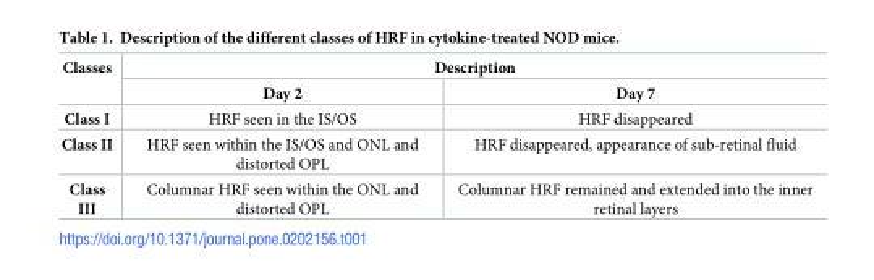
<table><thead><tr><td rowspan="2">Classes</td><td colspan="2">Description</td></tr><tr><td>Day 2</td><td>Day 7</td></tr></thead><tbody><tr><td>Class I</td><td>HRF seen in the IS/OS</td><td>HRF disappeared</td></tr><tr><td>Class II</td><td>HRF seen within the IS/OS and ONL and distorted OPL</td><td>HRF disappeared, appearance of sub-retinal fluid</td></tr><tr><td>Class III</td><td>Columnar HRF seen within the ONL and distorted OPL</td><td>Columnar HRF remained and extended into the inner retinal layers</td></tr></tbody></table>